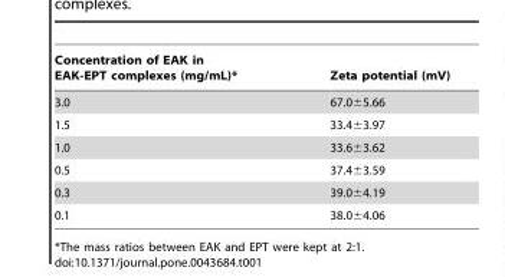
<table><thead><tr><td>Concentration of EAK in EAK-EPT complexes (mg/mL)*</td><td>Zeta potential (mV)</td></tr></thead><tbody><tr><td>3.0</td><td>67.0±5.66</td></tr><tr><td>1.5</td><td>33.4±3.97</td></tr><tr><td>1.0</td><td>33.6±3.62</td></tr><tr><td>0.5</td><td>37.4±3.59</td></tr><tr><td>0.3</td><td>39.0±4.19</td></tr><tr><td>0.1</td><td>38.0±4.06</td></tr></tbody></table>